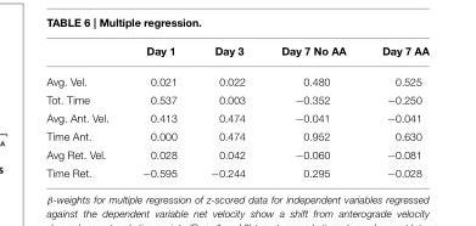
<table><thead><tr><td></td><td>Day 1</td><td>Day 3</td><td>Day 7 No AA</td><td>Day 7 AA</td></tr></thead><tbody><tr><td>Avg. Vel.</td><td>0.021</td><td>0.022</td><td>0.480</td><td>0.525</td></tr><tr><td>Tot. Time</td><td>0.537</td><td>0.003</td><td>−0.352</td><td>−0.250</td></tr><tr><td>Avg. Ant. Vel.</td><td>0.413</td><td>0.474</td><td>−0.041</td><td>−0.041</td></tr><tr><td>Time Ant.</td><td>0.000</td><td>0.474</td><td>0.952</td><td>0.630</td></tr><tr><td>Avg Ret. Vel.</td><td>0.028</td><td>0.042</td><td>−0.060</td><td>−0.081</td></tr><tr><td>Time Ret.</td><td>−0.595</td><td>−0.244</td><td>0.295</td><td>−0.028</td></tr></tbody></table>